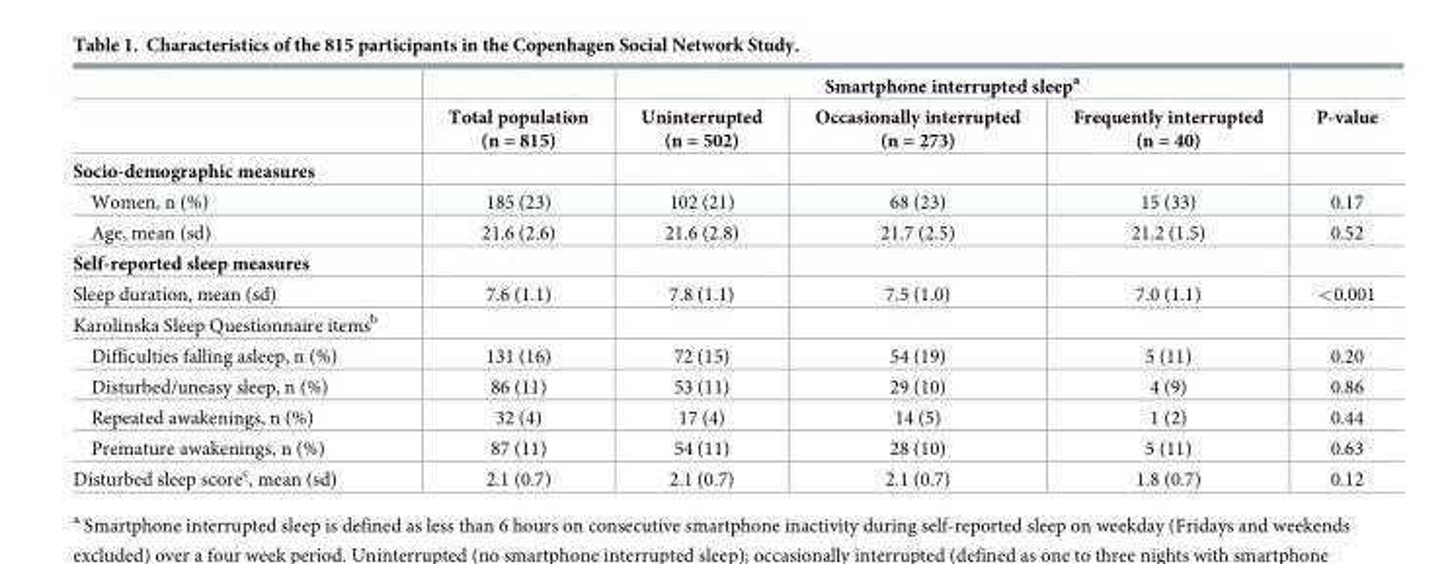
<table><thead><tr><td rowspan="2"></td><td rowspan="2">Total population (n = 815)</td><td colspan="3">Smartphone interrupted sleep<sup>a</sup></td><td rowspan="2">P-value</td></tr><tr><td>Uninterrupted (n = 502)</td><td>Occasionally interrupted (n = 273)</td><td>Frequently interrupted (n = 40)</td></tr></thead><tbody><tr><td colspan="6">Socio-demographic measures</td></tr><tr><td>Women, n (%)</td><td>185 (23)</td><td>102 (21)</td><td>68 (23)</td><td>15 (33)</td><td>0.17</td></tr><tr><td>Age, mean (sd)</td><td>21.6 (2.6)</td><td>21.6 (2.8)</td><td>21.7 (2.5)</td><td>21.2 (1.5)</td><td>0.52</td></tr><tr><td colspan="6">Self-reported sleep measures</td></tr><tr><td>Sleep duration, mean (sd)</td><td>7.6 (1.1)</td><td>7.8 (1.1)</td><td>7.5 (1.0)</td><td>7.0 (1.1)</td><td>&lt;0.001</td></tr><tr><td colspan="6">Karolinska Sleep Questionnaire items<sup>b</sup></td></tr><tr><td>Difficulties falling asleep, n (%)</td><td>131 (16)</td><td>72 (15)</td><td>54 (19)</td><td>5 (11)</td><td>0.20</td></tr><tr><td>Disturbed/uneasy sleep, n (%)</td><td>86 (11)</td><td>53 (11)</td><td>29 (10)</td><td>4 (9)</td><td>0.86</td></tr><tr><td>Repeated awakenings, n (%)</td><td>32 (4)</td><td>17 (4)</td><td>14 (5)</td><td>1 (2)</td><td>0.44</td></tr><tr><td>Premature awakenings, n (%)</td><td>87 (11)</td><td>54 (11)</td><td>28 (10)</td><td>5 (11)</td><td>0.63</td></tr><tr><td>Disturbed sleep score<sup>c</sup>, mean (sd)</td><td>2.1 (0.7)</td><td>2.1 (0.7)</td><td>2.1 (0.7)</td><td>1.8 (0.7)</td><td>0.12</td></tr></tbody></table>